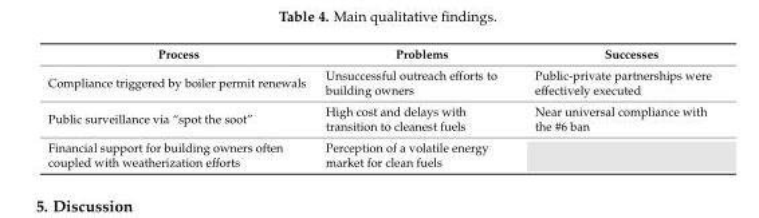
<table><thead><tr><td>Process</td><td>Problems</td><td>Successes</td></tr></thead><tbody><tr><td>Compliance triggered by boiler permit renewals</td><td>Unsuccessful outreach efforts to building owners</td><td>Public-private partnerships were effectively executed</td></tr><tr><td>Public surveillance via “spot the soot”</td><td>High cost and delays with transition to cleanest fuels</td><td>Near universal compliance with the #6 ban</td></tr><tr><td>Financial support for building owners often coupled with weatherization efforts</td><td>Perception of a volatile energy market for clean fuels</td><td></td></tr></tbody></table>